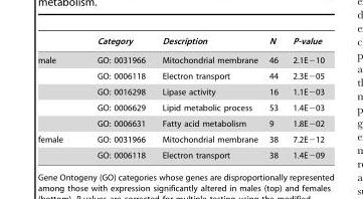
<table><thead><tr><td></td><td>Category</td><td>Description</td><td>N</td><td>P-value</td></tr></thead><tbody><tr><td rowspan="5">male</td><td>GO: 0031966</td><td>Mitochondrial membrane</td><td>46</td><td>2.1E−10</td></tr><tr><td>GO: 0006118</td><td>Electron transport</td><td>44</td><td>2.3E−05</td></tr><tr><td>GO: 0016298</td><td>Lipase activity</td><td>16</td><td>1.1E−03</td></tr><tr><td>GO: 0006629</td><td>Lipid metabolic process</td><td>53</td><td>1.4E−03</td></tr><tr><td>GO: 0006631</td><td>Fatty acid metabolism</td><td>9</td><td>1.8E−02</td></tr><tr><td rowspan="2">female</td><td>GO: 0031966</td><td>Mitochondrial membrane</td><td>38</td><td>7.2E−12</td></tr><tr><td>GO: 0006118</td><td>Electron transport</td><td>38</td><td>1.4E−09</td></tr></tbody></table>